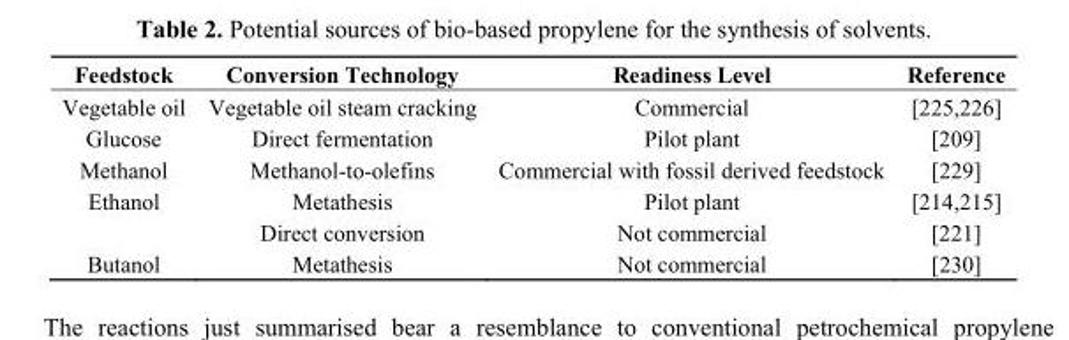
<table><thead><tr><td>Feedstock</td><td>Conversion Technology</td><td>Readiness Level</td><td>Reference</td></tr></thead><tbody><tr><td>Vegetable oil</td><td>Vegetable oil steam cracking</td><td>Commercial</td><td>[225,226]</td></tr><tr><td>Glucose</td><td>Direct fermentation</td><td>Pilot plant</td><td>[209]</td></tr><tr><td>Methanol</td><td>Methanol-to-olefins</td><td>Commercial with fossil derived feedstock</td><td>[229]</td></tr><tr><td rowspan="2">Ethanol</td><td>Metathesis</td><td>Pilot plant</td><td>[214,215]</td></tr><tr><td>Direct conversion</td><td>Not commercial</td><td>[221]</td></tr><tr><td>Butanol</td><td>Metathesis</td><td>Not commercial</td><td>[230]</td></tr></tbody></table>